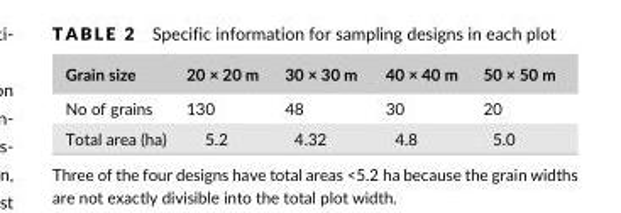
<table><thead><tr><td>Grain size</td><td>20 × 20 m</td><td>30 × 30 m</td><td>40 × 40 m</td><td>50 × 50 m</td></tr></thead><tbody><tr><td>No of grains</td><td>130</td><td>48</td><td>30</td><td>20</td></tr><tr><td>Total area (ha)</td><td>5.2</td><td>4.32</td><td>4.8</td><td>5.0</td></tr></tbody></table>